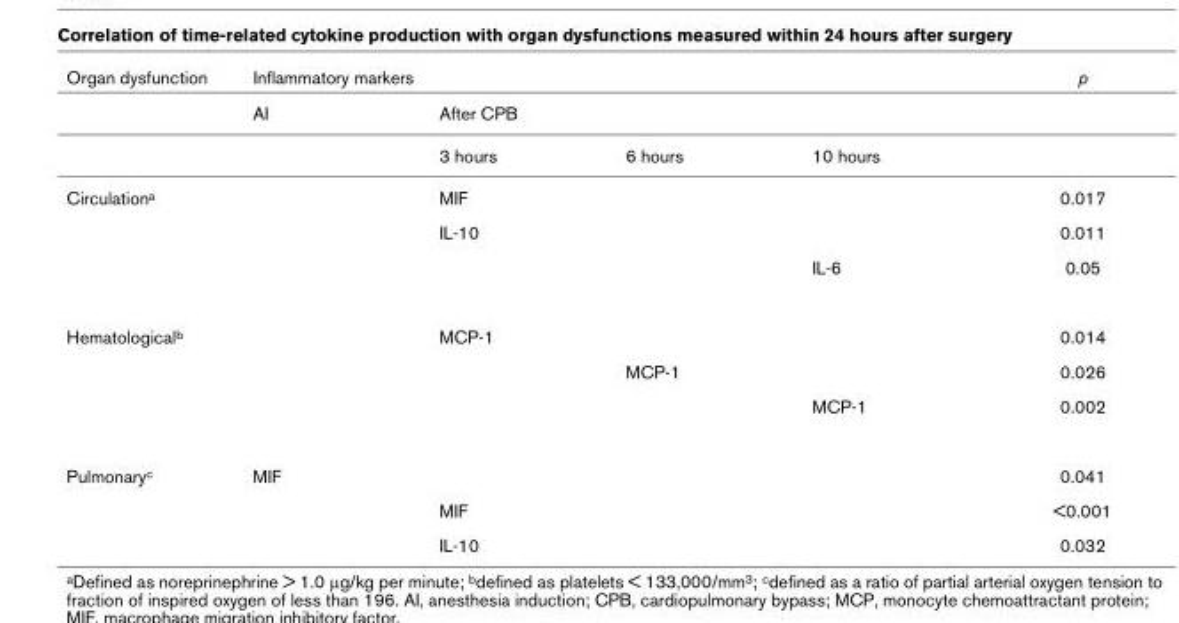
<table><thead><tr><td rowspan="3">Organ dysfunction</td><td colspan="4">Inflammatory markers</td><td rowspan="3">p</td></tr><tr><td rowspan="2">AI</td><td colspan="3">After CPB</td></tr><tr><td>3 hours</td><td>6 hours</td><td>10 hours</td></tr></thead><tbody><tr><td rowspan="3">Circulationa</td><td></td><td>MIF</td><td></td><td></td><td>0.017</td></tr><tr><td></td><td>IL-10</td><td></td><td></td><td>0.011</td></tr><tr><td></td><td></td><td></td><td>IL-6</td><td>0.05</td></tr><tr><td rowspan="3">Hematologicalb</td><td></td><td>MCP-1</td><td></td><td></td><td>0.014</td></tr><tr><td></td><td></td><td>MCP-1</td><td></td><td>0.026</td></tr><tr><td></td><td></td><td></td><td>MCP-1</td><td>0.002</td></tr><tr><td rowspan="3">Pulmonaryc</td><td>MIF</td><td></td><td></td><td></td><td>0.041</td></tr><tr><td></td><td>MIF</td><td></td><td></td><td>&lt;0.001</td></tr><tr><td></td><td>IL-10</td><td></td><td></td><td>0.032</td></tr></tbody></table>